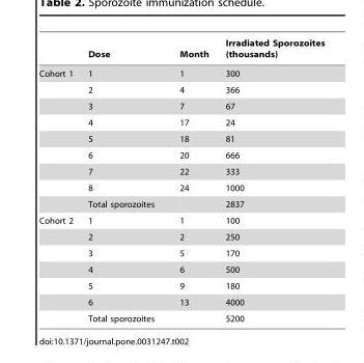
<table><thead><tr><td></td><td>Dose</td><td>Month</td><td>Irradiated Sporozoites (thousands)</td></tr></thead><tbody><tr><td rowspan="9">Cohort 1</td><td>1</td><td>1</td><td>300</td></tr><tr><td>2</td><td>4</td><td>366</td></tr><tr><td>3</td><td>7</td><td>67</td></tr><tr><td>4</td><td>17</td><td>24</td></tr><tr><td>5</td><td>18</td><td>81</td></tr><tr><td>6</td><td>20</td><td>666</td></tr><tr><td>7</td><td>22</td><td>333</td></tr><tr><td>8</td><td>24</td><td>1000</td></tr><tr><td>Total sporozoites</td><td></td><td>2837</td></tr><tr><td rowspan="7">Cohort 2</td><td>1</td><td>1</td><td>100</td></tr><tr><td>2</td><td>2</td><td>250</td></tr><tr><td>3</td><td>5</td><td>170</td></tr><tr><td>4</td><td>6</td><td>500</td></tr><tr><td>5</td><td>9</td><td>180</td></tr><tr><td>6</td><td>13</td><td>4000</td></tr><tr><td>Total sporozoites</td><td></td><td>5200</td></tr></tbody></table>